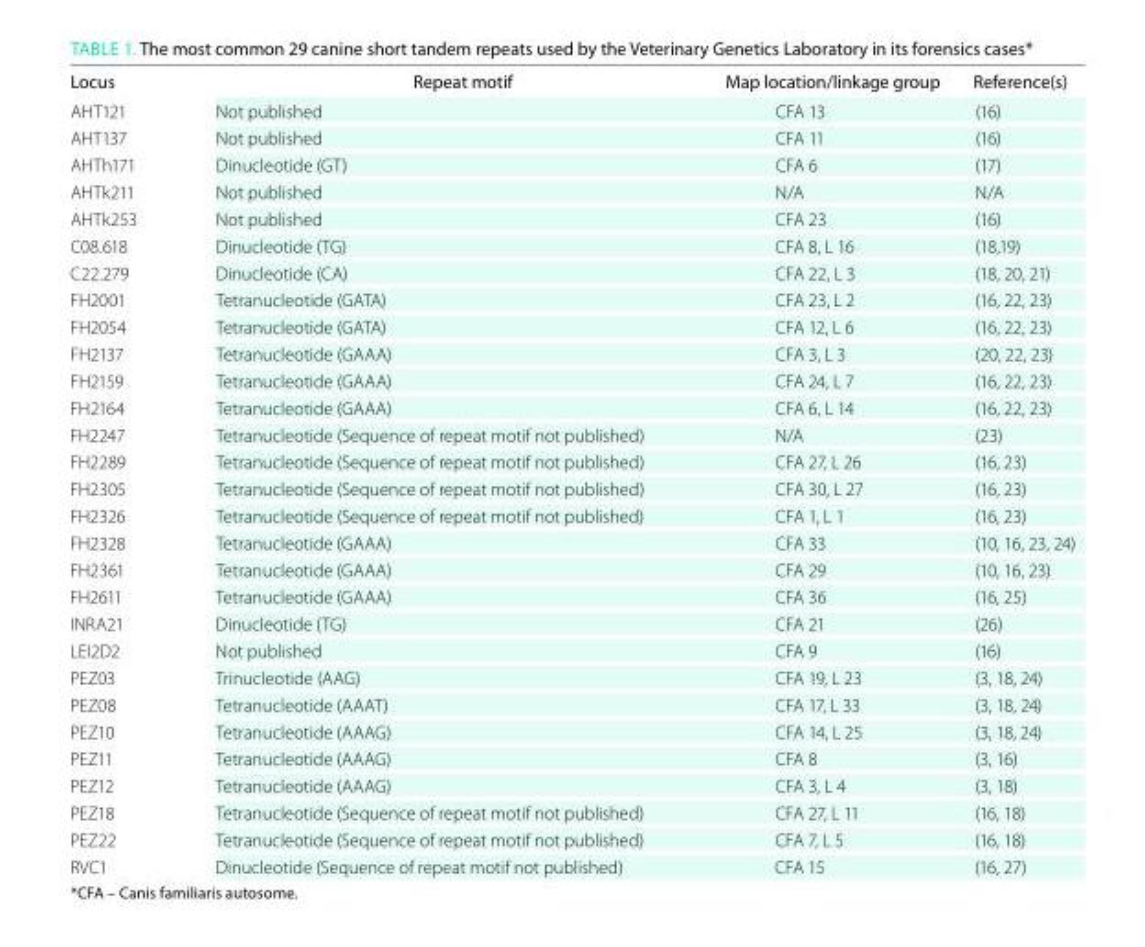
<table><thead><tr><td>locus</td><td>repeat motif</td><td>Map location/linkage group</td><td>reference(s)</td></tr></thead><tbody><tr><td>AHT121</td><td>Not published</td><td>CFA 13</td><td>(16)</td></tr><tr><td>AHT137</td><td>Not published</td><td>CFA 11</td><td>(16)</td></tr><tr><td>AHTh171</td><td>Dinucleotide (GT)</td><td>CFA 6</td><td>(17)</td></tr><tr><td>AHTk211</td><td>Not published</td><td>N/A</td><td>N/A</td></tr><tr><td>AHTk253</td><td>Not published</td><td>CFA 23</td><td>(16)</td></tr><tr><td>C08.618</td><td>Dinucleotide (TG)</td><td>CFA 8, L 16</td><td>(18,19)</td></tr><tr><td>C22.279</td><td>Dinucleotide (CA)</td><td>CFA 22, L 3</td><td>(18, 20, 21)</td></tr><tr><td>FH2001</td><td>Tetranucleotide (GATA)</td><td>CFA 23, L 2</td><td>(16, 22, 23)</td></tr><tr><td>FH2054</td><td>Tetranucleotide (GATA)</td><td>CFA 12, L 6</td><td>(16, 22, 23)</td></tr><tr><td>FH2137</td><td>Tetranucleotide (GAAA)</td><td>CFA 3, L 3</td><td>(20, 22, 23)</td></tr><tr><td>FH2159</td><td>Tetranucleotide (GAAA)</td><td>CFA 24, L 7</td><td>(16, 22, 23)</td></tr><tr><td>FH2164</td><td>Tetranucleotide (GAAA)</td><td>CFA 6, L 14</td><td>(16, 22, 23)</td></tr><tr><td>FH2247</td><td>Tetranucleotide (Sequence of repeat motif not published)</td><td>N/A</td><td>(23)</td></tr><tr><td>FH2289</td><td>Tetranucleotide (Sequence of repeat motif not published)</td><td>CFA 27, L 26</td><td>(16, 23)</td></tr><tr><td>FH2305</td><td>Tetranucleotide (Sequence of repeat motif not published)</td><td>CFA 30, L 27</td><td>(16, 23)</td></tr><tr><td>FH2326</td><td>Tetranucleotide (Sequence of repeat motif not published)</td><td>CFA 1, L 1</td><td>(16, 23)</td></tr><tr><td>FH2328</td><td>Tetranucleotide (GAAA)</td><td>CFA 33</td><td>(10, 16, 23, 24)</td></tr><tr><td>FH2361</td><td>Tetranucleotide (GAAA)</td><td>CFA 29</td><td>(10, 16, 23)</td></tr><tr><td>FH2611</td><td>Tetranucleotide (GAAA)</td><td>CFA 36</td><td>(16, 25)</td></tr><tr><td>INRA21</td><td>Dinucleotide (TG)</td><td>CFA 21</td><td>(26)</td></tr><tr><td>LEI2D2</td><td>Not published</td><td>CFA 9</td><td>(16)</td></tr><tr><td>PEZ03</td><td>Trinucleotide (AAG)</td><td>CFA 19, L 23</td><td>(3, 18, 24)</td></tr><tr><td>PEZ08</td><td>Tetranucleotide (AAAT)</td><td>CFA 17, L 33</td><td>(3, 18, 24)</td></tr><tr><td>PEZ10</td><td>Tetranucleotide (AAAG)</td><td>CFA 14, L 25</td><td>(3, 18, 24)</td></tr><tr><td>PEZ11</td><td>Tetranucleotide (AAAG)</td><td>CFA 8</td><td>(3, 16)</td></tr><tr><td>PEZ12</td><td>Tetranucleotide (AAAG)</td><td>CFA 3, L 4</td><td>(3, 18)</td></tr><tr><td>PEZ18</td><td>Tetranucleotide (Sequence of repeat motif not published)</td><td>CFA 27, L 11</td><td>(16, 18)</td></tr><tr><td>PEZ22</td><td>Tetranucleotide (Sequence of repeat motif not published)</td><td>CFA 7, L 5</td><td>(16, 18)</td></tr><tr><td>RVC1</td><td>Dinucleotide (Sequence of repeat motif not published)</td><td>CFA 15</td><td>(16, 27)</td></tr></tbody></table>